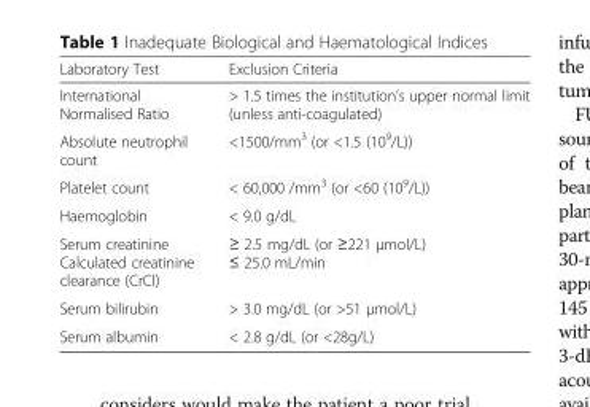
<table><thead><tr><td>Laboratory Test</td><td>Exclusion Criteria</td></tr></thead><tbody><tr><td>International Normalised Ratio</td><td>&gt; 1.5 times the institution’s upper normal limit (unless anti-coagulated)</td></tr><tr><td>Absolute neutrophil count</td><td>&lt;1500/mm<sup>3</sup> (or &lt;1.5 (10<sup>9</sup>/L))</td></tr><tr><td>Platelet count</td><td>&lt; 60,000 /mm<sup>3</sup> (or &lt;60 (10<sup>9</sup>/L))</td></tr><tr><td>Haemoglobin</td><td>&lt; 9.0 g/dL</td></tr><tr><td>Serum creatinine Calculated creatinine clearance (CrCl)</td><td>≥ 2.5 mg/dL (or ≥221 μmol/L) ≤ 25.0 mL/min</td></tr><tr><td>Serum bilirubin</td><td>&gt; 3.0 mg/dL (or &gt;51 μmol/L)</td></tr><tr><td>Serum albumin</td><td>&lt; 2.8 g/dL (or &lt;28g/L)</td></tr></tbody></table>